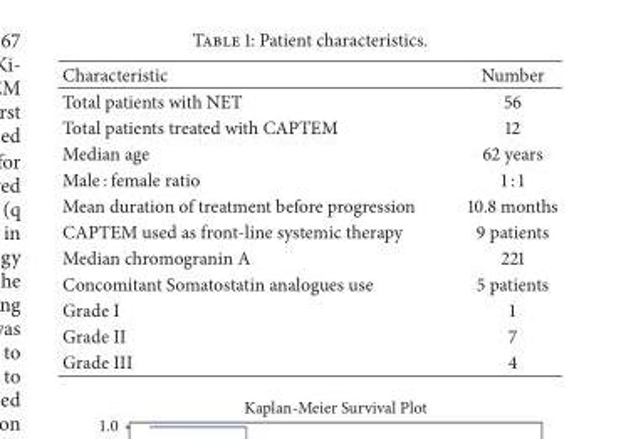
<table><thead><tr><td>Characteristic</td><td>Number</td></tr></thead><tbody><tr><td>Total patients with NET</td><td>56</td></tr><tr><td>Total patients treated with CAPTEM</td><td>12</td></tr><tr><td>Median age</td><td>62 years</td></tr><tr><td>Male : female ratio</td><td>1 : 1</td></tr><tr><td>Mean duration of treatment before progression</td><td>10.8 months</td></tr><tr><td>CAPTEM used as front-line systemic therapy</td><td>9 patients</td></tr><tr><td>Median chromogranin A</td><td>221</td></tr><tr><td>Concomitant Somatostatin analogues use</td><td>5 patients</td></tr><tr><td>Grade I</td><td>1</td></tr><tr><td>Grade II</td><td>7</td></tr><tr><td>Grade III</td><td>4</td></tr></tbody></table>